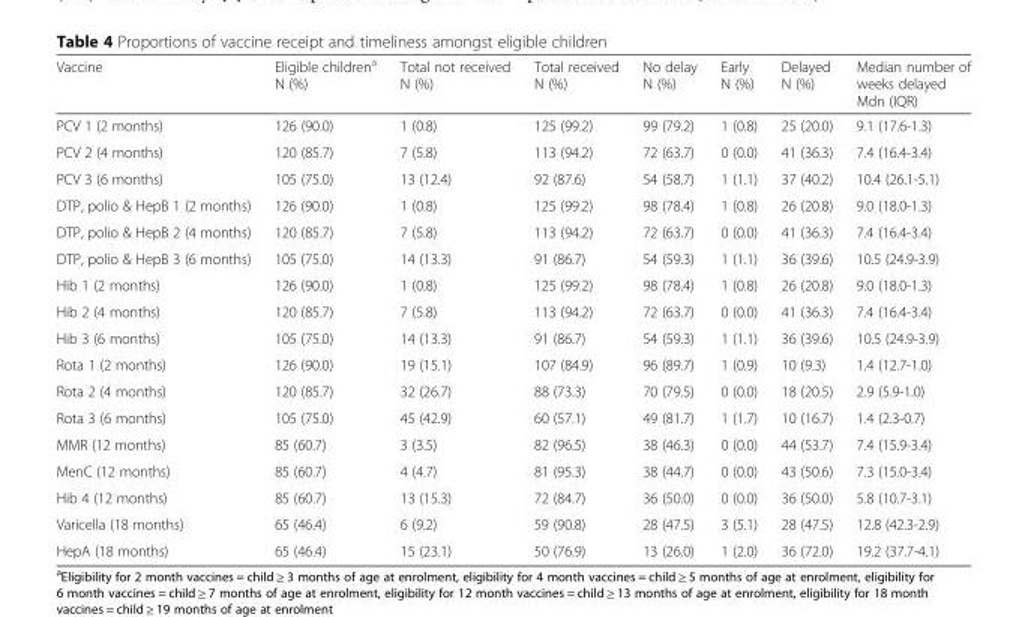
<table><thead><tr><td>Vaccine</td><td>Eligible children<sup>a</sup> N (%)</td><td>Total not received N (%)</td><td>Total received N (%)</td><td>No delay N (%)</td><td>Early N (%)</td><td>Delayed N (%)</td><td>Median number of weeks delayed Mdn (IQR)</td></tr></thead><tbody><tr><td>PCV 1 (2 months)</td><td>126 (90.0)</td><td>1 (0.8)</td><td>125 (99.2)</td><td>99 (79.2)</td><td>1 (0.8)</td><td>25 (20.0)</td><td>9.1 (17.6-1.3)</td></tr><tr><td>PCV 2 (4 months)</td><td>120 (85.7)</td><td>7 (5.8)</td><td>113 (94.2)</td><td>72 (63.7)</td><td>0 (0.0)</td><td>41 (36.3)</td><td>7.4 (16.4-3.4)</td></tr><tr><td>PCV 3 (6 months)</td><td>105 (75.0)</td><td>13 (12.4)</td><td>92 (87.6)</td><td>54 (58.7)</td><td>1 (1.1)</td><td>37 (40.2)</td><td>10.4 (26.1-5.1)</td></tr><tr><td>DTP, polio &amp; HepB 1 (2 months)</td><td>126 (90.0)</td><td>1 (0.8)</td><td>125 (99.2)</td><td>98 (78.4)</td><td>1 (0.8)</td><td>26 (20.8)</td><td>9.0 (18.0-1.3)</td></tr><tr><td>DTP, polio &amp; HepB 2 (4 months)</td><td>120 (85.7)</td><td>7 (5.8)</td><td>113 (94.2)</td><td>72 (63.7)</td><td>0 (0.0)</td><td>41 (36.3)</td><td>7.4 (16.4-3.4)</td></tr><tr><td>DTP, polio &amp; HepB 3 (6 months)</td><td>105 (75.0)</td><td>14 (13.3)</td><td>91 (86.7)</td><td>54 (59.3)</td><td>1 (1.1)</td><td>36 (39.6)</td><td>10.5 (24.9-3.9)</td></tr><tr><td>Hib 1 (2 months)</td><td>126 (90.0)</td><td>1 (0.8)</td><td>125 (99.2)</td><td>98 (78.4)</td><td>1 (0.8)</td><td>26 (20.8)</td><td>9.0 (18.0-1.3)</td></tr><tr><td>Hib 2 (4 months)</td><td>120 (85.7)</td><td>7 (5.8)</td><td>113 (94.2)</td><td>72 (63.7)</td><td>0 (0.0)</td><td>41 (36.3)</td><td>7.4 (16.4-3.4)</td></tr><tr><td>Hib 3 (6 months)</td><td>105 (75.0)</td><td>14 (13.3)</td><td>91 (86.7)</td><td>54 (59.3)</td><td>1 (1.1)</td><td>36 (39.6)</td><td>10.5 (24.9-3.9)</td></tr><tr><td>Rota 1 (2 months)</td><td>126 (90.0)</td><td>19 (15.1)</td><td>107 (84.9)</td><td>96 (89.7)</td><td>1 (0.9)</td><td>10 (9.3)</td><td>1.4 (12.7-1.0)</td></tr><tr><td>Rota 2 (4 months)</td><td>120 (85.7)</td><td>32 (26.7)</td><td>88 (73.3)</td><td>70 (79.5)</td><td>0 (0.0)</td><td>18 (20.5)</td><td>2.9 (5.9-1.0)</td></tr><tr><td>Rota 3 (6 months)</td><td>105 (75.0)</td><td>45 (42.9)</td><td>60 (57.1)</td><td>49 (81.7)</td><td>1 (1.7)</td><td>10 (16.7)</td><td>1.4 (2.3-0.7)</td></tr><tr><td>MMR (12 months)</td><td>85 (60.7)</td><td>3 (3.5)</td><td>82 (96.5)</td><td>38 (46.3)</td><td>0 (0.0)</td><td>44 (53.7)</td><td>7.4 (15.9-3.4)</td></tr><tr><td>MenC (12 months)</td><td>85 (60.7)</td><td>4 (4.7)</td><td>81 (95.3)</td><td>38 (44.7)</td><td>0 (0.0)</td><td>43 (50.6)</td><td>7.3 (15.0-3.4)</td></tr><tr><td>Hib 4 (12 months)</td><td>85 (60.7)</td><td>13 (15.3)</td><td>72 (84.7)</td><td>36 (50.0)</td><td>0 (0.0)</td><td>36 (50.0)</td><td>5.8 (10.7-3.1)</td></tr><tr><td>Varicella (18 months)</td><td>65 (46.4)</td><td>6 (9.2)</td><td>59 (90.8)</td><td>28 (47.5)</td><td>3 (5.1)</td><td>28 (47.5)</td><td>12.8 (42.3-2.9)</td></tr><tr><td>HepA (18 months)</td><td>65 (46.4)</td><td>15 (23.1)</td><td>50 (76.9)</td><td>13 (26.0)</td><td>1 (2.0)</td><td>36 (72.0)</td><td>19.2 (37.7-4.1)</td></tr></tbody></table>